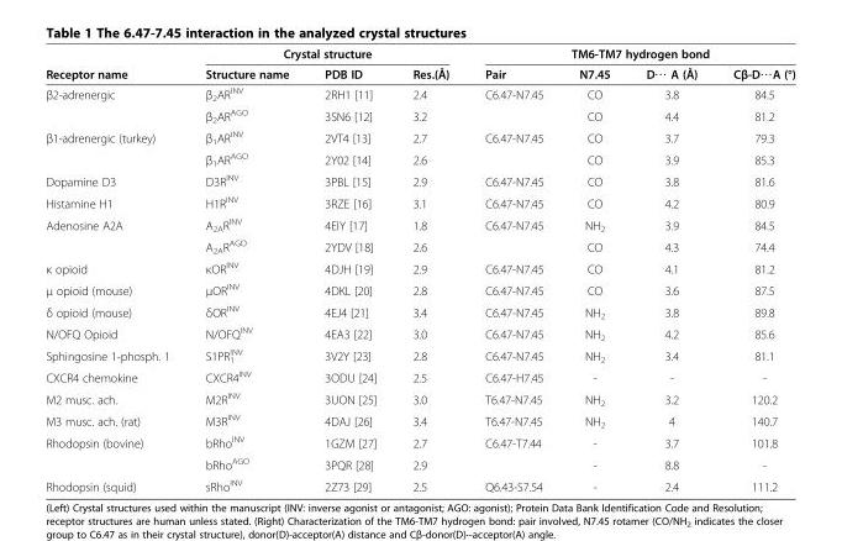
<table><thead><tr><td rowspan="2">Receptor name</td><td colspan="3">Crystal structure</td><td colspan="4">TM6-TM7 hydrogen bond</td></tr><tr><td>Structure name</td><td>PDB ID</td><td>Res.(Å)</td><td>Pair</td><td>N7.45</td><td>D⋯ A (Å)</td><td>Cβ-D⋯A (°)</td></tr></thead><tbody><tr><td rowspan="2">β2-adrenergic</td><td>β<sub>2</sub>AR<sup>INV</sup></td><td>2RH1 [11]</td><td>2.4</td><td rowspan="2">C6.47-N7.45</td><td>CO</td><td>3.8</td><td>84.5</td></tr><tr><td>β<sub>2</sub>AR<sup>AGO</sup></td><td>3SN6 [12]</td><td>3.2</td><td>CO</td><td>4.4</td><td>81.2</td></tr><tr><td rowspan="2">β1-adrenergic (turkey)</td><td>β<sub>1</sub>AR<sup>INV</sup></td><td>2VT4 [13]</td><td>2.7</td><td rowspan="2">C6.47-N7.45</td><td>CO</td><td>3.7</td><td>79.3</td></tr><tr><td>β<sub>1</sub>AR<sup>AGO</sup></td><td>2Y02 [14]</td><td>2.6</td><td>CO</td><td>3.9</td><td>85.3</td></tr><tr><td>Dopamine D3</td><td>D3R<sup>INV</sup></td><td>3PBL [15]</td><td>2.9</td><td>C6.47-N7.45</td><td>CO</td><td>3.8</td><td>81.6</td></tr><tr><td>Histamine H1</td><td>H1R<sup>INV</sup></td><td>3RZE [16]</td><td>3.1</td><td>C6.47-N7.45</td><td>CO</td><td>4.2</td><td>80.9</td></tr><tr><td rowspan="2">Adenosine A2A</td><td>A<sub>2A</sub>R<sup>INV</sup></td><td>4EIY [17]</td><td>1.8</td><td>C6.47-N7.45</td><td>NH<sub>2</sub></td><td>3.9</td><td>84.5</td></tr><tr><td>A<sub>2A</sub>R<sup>AGO</sup></td><td>2YDV [18]</td><td>2.6</td><td></td><td>CO</td><td>4.3</td><td>74.4</td></tr><tr><td>κ opioid</td><td>κOR<sup>INV</sup></td><td>4DJH [19]</td><td>2.9</td><td>C6.47-N7.45</td><td>CO</td><td>4.1</td><td>81.2</td></tr><tr><td>μ opioid (mouse)</td><td>μOR<sup>INV</sup></td><td>4DKL [20]</td><td>2.8</td><td>C6.47-N7.45</td><td>CO</td><td>3.6</td><td>87.5</td></tr><tr><td>δ opioid (mouse)</td><td>δOR<sup>INV</sup></td><td>4EJ4 [21]</td><td>3.4</td><td>C6.47-N7.45</td><td>NH<sub>2</sub></td><td>3.8</td><td>89.8</td></tr><tr><td>N/OFQ Opioid</td><td>N/OFQ<sup>INV</sup></td><td>4EA3 [22]</td><td>3.0</td><td>C6.47-N7.45</td><td>NH<sub>2</sub></td><td>4.2</td><td>85.6</td></tr><tr><td>Sphingosine 1-phosph. 1</td><td>S1PR<sub>1</sub> <sup>INV</sup></td><td>3V2Y [23]</td><td>2.8</td><td>C6.47-N7.45</td><td>NH<sub>2</sub></td><td>3.4</td><td>81.1</td></tr><tr><td>CXCR4 chemokine</td><td>CXCR4<sup>INV</sup></td><td>3ODU [24]</td><td>2.5</td><td>C6.47-H7.45</td><td>-</td><td>-</td><td>-</td></tr><tr><td>M2 musc. ach.</td><td>M2R<sup>INV</sup></td><td>3UON [25]</td><td>3.0</td><td>T6.47-N7.45</td><td>NH<sub>2</sub></td><td>3.2</td><td>120.2</td></tr><tr><td>M3 musc. ach. (rat)</td><td>M3R<sup>INV</sup></td><td>4DAJ [26]</td><td>3.4</td><td>T6.47-N7.45</td><td>NH<sub>2</sub></td><td>4</td><td>140.7</td></tr><tr><td rowspan="2">Rhodopsin (bovine)</td><td>bRho<sup>INV</sup></td><td>1GZM [27]</td><td>2.7</td><td rowspan="2">C6.47-T7.44</td><td>-</td><td>3.7</td><td>101.8</td></tr><tr><td>bRho<sup>AGO</sup></td><td>3PQR [28]</td><td>2.9</td><td>-</td><td>8.8</td><td>-</td></tr><tr><td>Rhodopsin (squid)</td><td>sRho<sup>INV</sup></td><td>2Z73 [29]</td><td>2.5</td><td>Q6.43-S7.54</td><td>-</td><td>2.4</td><td>111.2</td></tr></tbody></table>